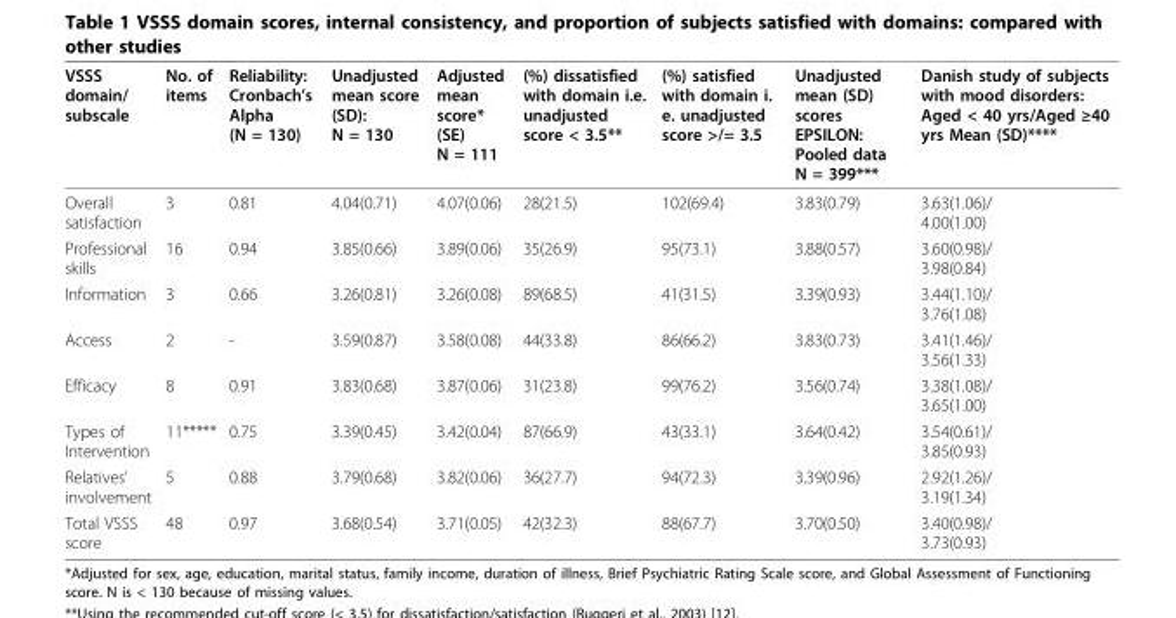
<table><thead><tr><td>VSSS domain/ subscale</td><td>No. of items</td><td>Reliability: Cronbach’s Alpha (N = 130)</td><td>Unadjusted mean score (SD): N = 130</td><td>Adjusted mean score* (SE) N = 111</td><td>(%) dissatisfied with domain i.e. unadjusted score &lt; 3.5**</td><td>(%) satisfied with domain i. e. unadjusted score &gt;/= 3.5</td><td>Unadjusted mean (SD) scores EPSILON: Pooled data N = 399***</td><td>Danish study of subjects with mood disorders: Aged &lt; 40 yrs/Aged ≥40 yrs Mean (SD)****</td></tr></thead><tbody><tr><td>Overall satisfaction</td><td>3</td><td>0.81</td><td>4.04(0.71)</td><td>4.07(0.06)</td><td>28(21.5)</td><td>102(69.4)</td><td>3.83(0.79)</td><td>3.63(1.06)/ 4.00(1.00)</td></tr><tr><td>Professional skills</td><td>16</td><td>0.94</td><td>3.85(0.66)</td><td>3.89(0.06)</td><td>35(26.9)</td><td>95(73.1)</td><td>3.88(0.57)</td><td>3.60(0.98)/ 3.98(0.84)</td></tr><tr><td>Information</td><td>3</td><td>0.66</td><td>3.26(0.81)</td><td>3.26(0.08)</td><td>89(68.5)</td><td>41(31.5)</td><td>3.39(0.93)</td><td>3.44(1.10)/ 3.76(1.08)</td></tr><tr><td>Access</td><td>2</td><td>-</td><td>3.59(0.87)</td><td>3.58(0.08)</td><td>44(33.8)</td><td>86(66.2)</td><td>3.83(0.73)</td><td>3.41(1.46)/ 3.56(1.33)</td></tr><tr><td>Efficacy</td><td>8</td><td>0.91</td><td>3.83(0.68)</td><td>3.87(0.06)</td><td>31(23.8)</td><td>99(76.2)</td><td>3.56(0.74)</td><td>3.38(1.08)/ 3.65(1.00)</td></tr><tr><td>Types of Intervention</td><td>11*****</td><td>0.75</td><td>3.39(0.45)</td><td>3.42(0.04)</td><td>87(66.9)</td><td>43(33.1)</td><td>3.64(0.42)</td><td>3.54(0.61)/ 3.85(0.93)</td></tr><tr><td>Relatives’ involvement</td><td>5</td><td>0.88</td><td>3.79(0.68)</td><td>3.82(0.06)</td><td>36(27.7)</td><td>94(72.3)</td><td>3.39(0.96)</td><td>2.92(1.26)/ 3.19(1.34)</td></tr><tr><td>Total VSSS score</td><td>48</td><td>0.97</td><td>3.68(0.54)</td><td>3.71(0.05)</td><td>42(32.3)</td><td>88(67.7)</td><td>3.70(0.50)</td><td>3.40(0.98)/ 3.73(0.93)</td></tr></tbody></table>